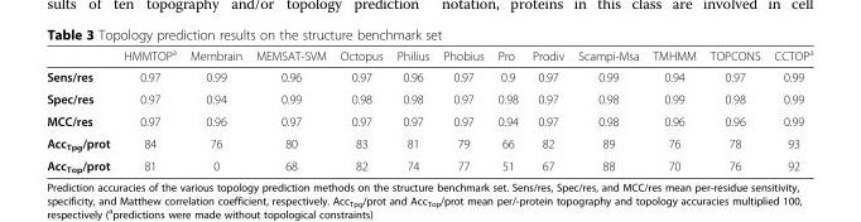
<table><thead><tr><td></td><td>HMMTOP<sup>a</sup></td><td>Membrain</td><td>MEMSAT-SVM</td><td>Octopus</td><td>Philius</td><td>Phobius</td><td>Pro</td><td>Prodiv</td><td>Scampi-Msa</td><td>TMHMM</td><td>TOPCONS</td><td>CCTOP<sup>a</sup></td></tr></thead><tbody><tr><td>Sens/res</td><td>0.97</td><td>0.99</td><td>0.96</td><td>0.97</td><td>0.96</td><td>0.97</td><td>0.9</td><td>0.97</td><td>0.99</td><td>0.94</td><td>0.97</td><td>0.99</td></tr><tr><td>Spec/res</td><td>0.97</td><td>0.94</td><td>0.99</td><td>0.98</td><td>0.98</td><td>0.97</td><td>0.98</td><td>0.97</td><td>0.98</td><td>0.99</td><td>0.98</td><td>0.99</td></tr><tr><td>MCC/res</td><td>0.97</td><td>0.96</td><td>0.97</td><td>0.97</td><td>0.97</td><td>0.97</td><td>0.94</td><td>0.97</td><td>0.98</td><td>0.96</td><td>0.96</td><td>0.99</td></tr><tr><td>Acc<sub>Tpg</sub>/prot</td><td>84</td><td>76</td><td>80</td><td>83</td><td>81</td><td>79</td><td>66</td><td>82</td><td>89</td><td>76</td><td>78</td><td>93</td></tr><tr><td>Acc<sub>Top</sub>/prot</td><td>81</td><td>0</td><td>68</td><td>82</td><td>74</td><td>77</td><td>51</td><td>67</td><td>88</td><td>70</td><td>76</td><td>92</td></tr></tbody></table>